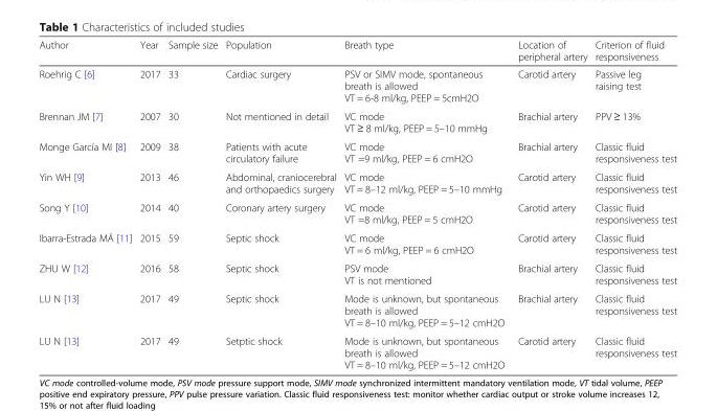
<table><thead><tr><td>Author</td><td>Year</td><td>Sample size</td><td>Population</td><td>Breath type</td><td>Location of peripheral artery</td><td>Criterion of fluid responsiveness</td></tr></thead><tbody><tr><td>Roehrig C [6]</td><td>2017</td><td>33</td><td>Cardiac surgery</td><td>PSV or SIMV mode, spontaneous breath is allowed VT = 6-8 ml/kg, PEEP = 5cmH2O</td><td>Carotid artery</td><td>Passive leg raising test</td></tr><tr><td>Brennan JM [7]</td><td>2007</td><td>30</td><td>Not mentioned in detail</td><td>VC mode VT ≥ 8 ml/kg, PEEP = 5–10 mmHg</td><td>Brachial artery</td><td>PPV ≥ 13%</td></tr><tr><td>Monge García MI [8]</td><td>2009</td><td>38</td><td>Patients with acute circulatory failure</td><td>VC mode VT =9 ml/kg, PEEP = 6 cmH2O</td><td>Brachial artery</td><td>Classic fluid responsiveness test</td></tr><tr><td>Yin WH [9]</td><td>2013</td><td>46</td><td>Abdominal, craniocerebral and orthopaedics surgery</td><td>VC mode VT = 8–12 ml/kg, PEEP = 5–10 mmHg</td><td>Carotid artery</td><td>Classic fluid responsiveness test</td></tr><tr><td>Song Y [10]</td><td>2014</td><td>40</td><td>Coronary artery surgery</td><td>VC mode VT =8 ml/kg, PEEP = 5 cmH2O</td><td>Carotid artery</td><td>Classic fluid responsiveness test</td></tr><tr><td>Ibarra-Estrada MÁ [11]</td><td>2015</td><td>59</td><td>Septic shock</td><td>VC mode VT = 6 ml/kg, PEEP = 6 cmH2O</td><td>Carotid artery</td><td>Classic fluid responsiveness test</td></tr><tr><td>ZHU W [12]</td><td>2016</td><td>58</td><td>Septic shock</td><td>PSV mode VT is not mentioned</td><td>Brachial artery</td><td>Classic fluid responsiveness test</td></tr><tr><td>LU N [13]</td><td>2017</td><td>49</td><td>Septic shock</td><td>Mode is unknown, but spontaneous breath is allowed VT = 8–10 ml/kg, PEEP = 5–12 cmH2O</td><td>Brachial artery</td><td>Classic fluid responsiveness test</td></tr><tr><td>LU N [13]</td><td>2017</td><td>49</td><td>Setptic shock</td><td>Mode is unknown, but spontaneous breath is allowed VT = 8–10 ml/kg, PEEP = 5–12 cmH2O</td><td>Carotid artery</td><td>Classic fluid responsiveness test</td></tr></tbody></table>